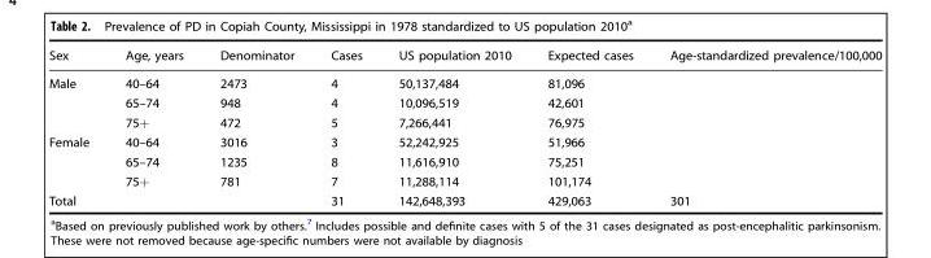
<table><thead><tr><td>Sex</td><td>Age, years</td><td>Denominator</td><td>Cases</td><td>US population 2010</td><td>Expected cases</td><td>Age-standardized prevalence/100,000</td></tr></thead><tbody><tr><td rowspan="3">Male</td><td>40–64</td><td>2473</td><td>4</td><td>50,137,484</td><td>81,096</td><td></td></tr><tr><td>65–74</td><td>948</td><td>4</td><td>10,096,519</td><td>42,601</td><td></td></tr><tr><td>75+</td><td>472</td><td>5</td><td>7,266,441</td><td>76,975</td><td></td></tr><tr><td rowspan="3">Female</td><td>40–64</td><td>3016</td><td>3</td><td>52,242,925</td><td>51,966</td><td></td></tr><tr><td>65–74</td><td>1235</td><td>8</td><td>11,616,910</td><td>75,251</td><td></td></tr><tr><td>75+</td><td>781</td><td>7</td><td>11,288,114</td><td>101,174</td><td></td></tr><tr><td>Total</td><td></td><td></td><td>31</td><td>142,648,393</td><td>429,063</td><td>301</td></tr></tbody></table>